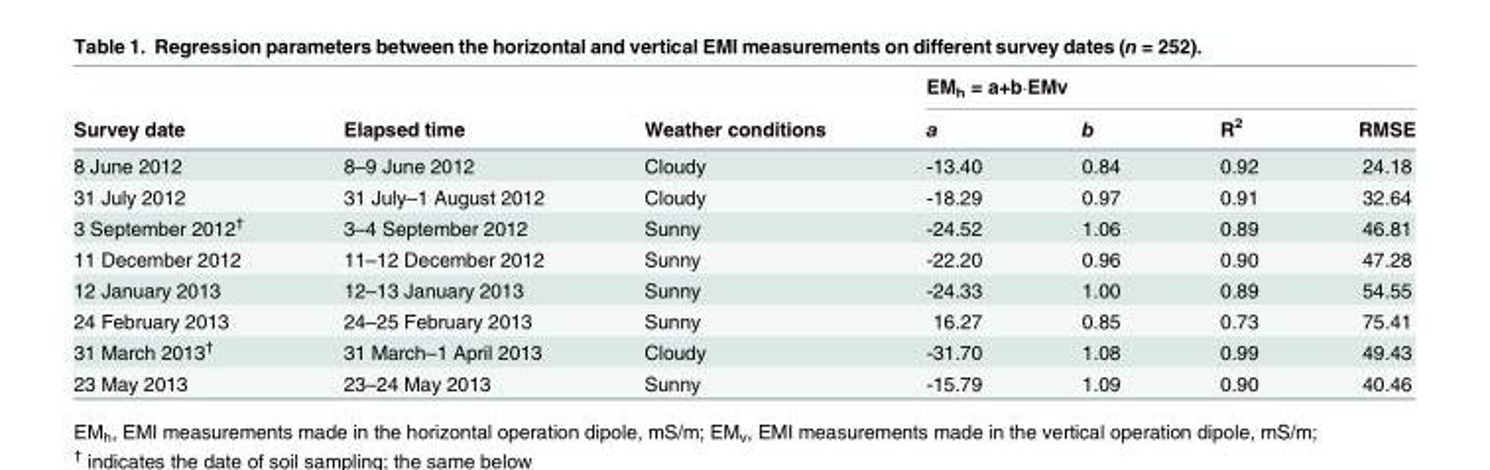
<table><thead><tr><td rowspan="2">Survey date</td><td rowspan="2">Elapsed time</td><td rowspan="2">Weather conditions</td><td colspan="4">EM<sub>h</sub> = a+b·EMv</td></tr><tr><td>a</td><td>b</td><td>R<sup>2</sup></td><td>RMSE</td></tr></thead><tbody><tr><td>8 June 2012</td><td>8–9 June 2012</td><td>Cloudy</td><td>-13.40</td><td>0.84</td><td>0.92</td><td>24.18</td></tr><tr><td>31 July 2012</td><td>31 July–1 August 2012</td><td>Cloudy</td><td>-18.29</td><td>0.97</td><td>0.91</td><td>32.64</td></tr><tr><td>3 September 2012<sup>†</sup></td><td>3–4 September 2012</td><td>Sunny</td><td>-24.52</td><td>1.06</td><td>0.89</td><td>46.81</td></tr><tr><td>11 December 2012</td><td>11–12 December 2012</td><td>Sunny</td><td>-22.20</td><td>0.96</td><td>0.90</td><td>47.28</td></tr><tr><td>12 January 2013</td><td>12–13 January 2013</td><td>Sunny</td><td>-24.33</td><td>1.00</td><td>0.89</td><td>54.55</td></tr><tr><td>24 February 2013</td><td>24–25 February 2013</td><td>Sunny</td><td>16.27</td><td>0.85</td><td>0.73</td><td>75.41</td></tr><tr><td>31 March 2013<sup>†</sup></td><td>31 March–1 April 2013</td><td>Cloudy</td><td>-31.70</td><td>1.08</td><td>0.99</td><td>49.43</td></tr><tr><td>23 May 2013</td><td>23–24 May 2013</td><td>Sunny</td><td>-15.79</td><td>1.09</td><td>0.90</td><td>40.46</td></tr></tbody></table>